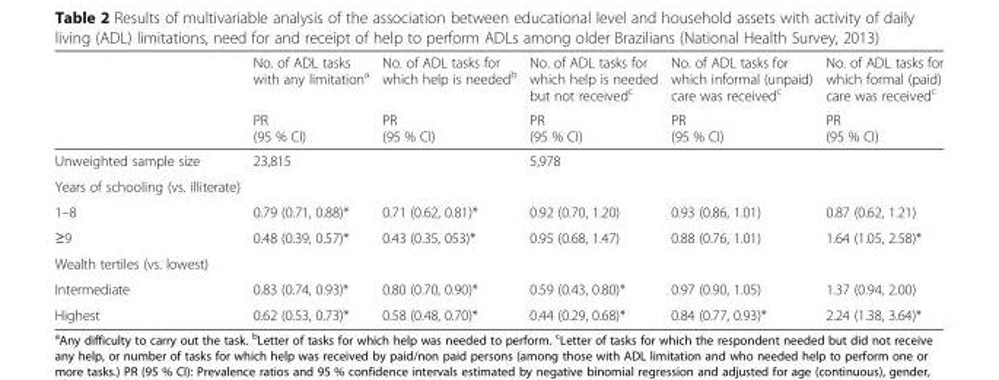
<table><thead><tr><td rowspan="2"></td><td rowspan="2">No. of ADL tasks with any limitation<sup>a</sup> PR (95 % CI)</td><td rowspan="2">No. of ADL tasks for which help is needed<sup>b</sup> PR (95 % CI)</td><td rowspan="2">No. of ADL tasks for which help is needed but not received<sup>c</sup> PR (95 % CI)</td><td rowspan="2">No. of ADL tasks for which informal (unpaid) care was received<sup>c</sup> PR (95 % CI)</td><td rowspan="2">No. of ADL tasks for which formal (paid) care was received<sup>c</sup> PR (95 % CI)</td></tr><tr></tr></thead><tbody><tr><td>Unweighted sample size</td><td colspan="2">23,815</td><td colspan="3">5,978</td></tr><tr><td colspan="6">Years of schooling (vs. illiterate)</td></tr><tr><td>1–8</td><td>0.79 (0.71, 0.88)*</td><td>0.71 (0.62, 0.81)*</td><td>0.92 (0.70, 1.20)</td><td>0.93 (0.86, 1.01)</td><td>0.87 (0.62, 1.21)</td></tr><tr><td>≥9</td><td>0.48 (0.39, 0.57)*</td><td>0.43 (0.35, 053)*</td><td>0.95 (0.68, 1.47)</td><td>0.88 (0.76, 1.01)</td><td>1.64 (1.05, 2.58)*</td></tr><tr><td colspan="6">Wealth tertiles (vs. lowest)</td></tr><tr><td>Intermediate</td><td>0.83 (0.74, 0.93)*</td><td>0.80 (0.70, 0.90)*</td><td>0.59 (0.43, 0.80)*</td><td>0.97 (0.90, 1.05)</td><td>1.37 (0.94, 2.00)</td></tr><tr><td>Highest</td><td>0.62 (0.53, 0.73)*</td><td>0.58 (0.48, 0.70)*</td><td>0.44 (0.29, 0.68)*</td><td>0.84 (0.77, 0.93)*</td><td>2.24 (1.38, 3.64)*</td></tr></tbody></table>